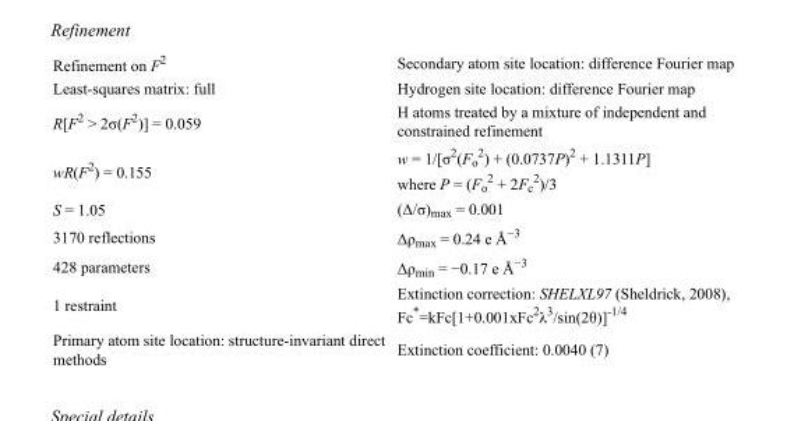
<table><tbody><tr><td>Refinement on F<sup>2</sup></td><td>Secondary atom site location: difference Fourier map</td></tr><tr><td>Least-squares matrix: full</td><td>Hydrogen site location: difference Fourier map</td></tr><tr><td>R[F<sup>2</sup> &gt; 2σ(F<sup>2</sup>)] = 0.059</td><td>H atoms treated by a mixture of independent and constrained refinement</td></tr><tr><td>wR(F<sup>2</sup>) = 0.155</td><td>w = 1/[σ<sup>2</sup>(F<sub>o</sub> <sup>2</sup>) + (0.0737P)<sup>2</sup> + 1.1311P] where P = (F<sub>o</sub> <sup>2</sup> + 2F<sub>c</sub> <sup>2</sup>)/3</td></tr><tr><td>S = 1.05</td><td>(Δ/σ)<sub>max</sub> = 0.001</td></tr><tr><td>3170 reflections</td><td>Δρ<sub>max</sub> = 0.24 e Å<sup>−3</sup></td></tr><tr><td>428 parameters</td><td>Δρ<sub>min</sub> = −0.17 e Å<sup>−3</sup></td></tr><tr><td>1 restraint</td><td>Extinction correction: SHELXL97 (Sheldrick, 2008), Fc*=kFc[1+0.001xFc<sup>2</sup>λ<sup>3</sup>/sin(2θ)]<sup>-1/4</sup></td></tr><tr><td>Primary atom site location: structure-invariant direct methods</td><td>Extinction coefficient: 0.0040 (7)</td></tr></tbody></table>